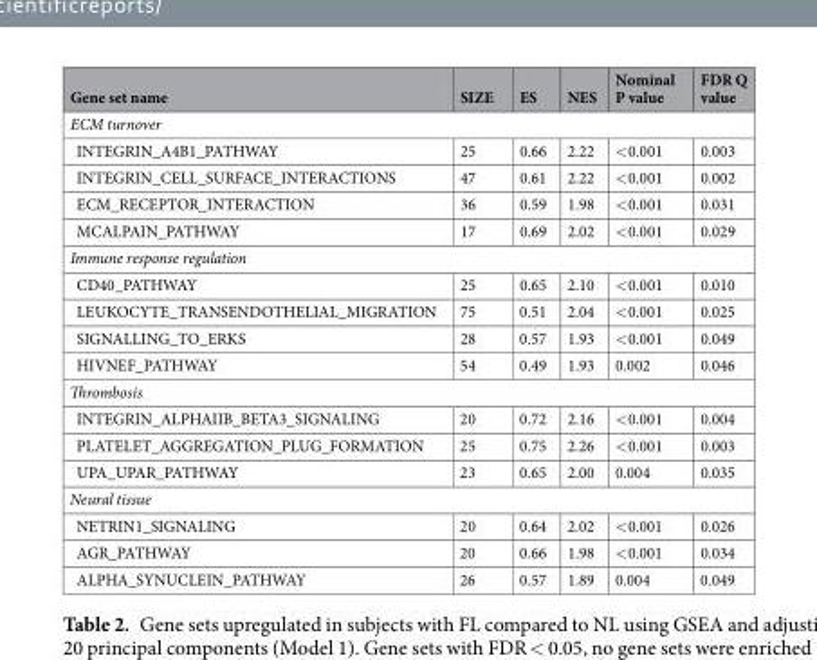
<table><thead><tr><td>Gene set name</td><td>SIZE</td><td>ES</td><td>NES</td><td>Nominal P value</td><td>FDR Q value</td></tr></thead><tbody><tr><td colspan="6">ECM turnover</td></tr><tr><td>INTEGRIN_A4B1_PATHWAY</td><td>25</td><td>0.66</td><td>2.22</td><td>&lt;0.001</td><td>0.003</td></tr><tr><td>INTEGRIN_CELL_SURFACE_INTERACTIONS</td><td>47</td><td>0.61</td><td>2.22</td><td>&lt;0.001</td><td>0.002</td></tr><tr><td>ECM_RECEPTOR_INTERACTION</td><td>36</td><td>0.59</td><td>1.98</td><td>&lt;0.001</td><td>0.031</td></tr><tr><td>MCALPAIN_PATHWAY</td><td>17</td><td>0.69</td><td>2.02</td><td>&lt;0.001</td><td>0.029</td></tr><tr><td colspan="6">Immune response regulation</td></tr><tr><td>CD40_PATHWAY</td><td>25</td><td>0.65</td><td>2.10</td><td>&lt;0.001</td><td>0.010</td></tr><tr><td>LEUKOCYTE_TRANSENDOTHELIAL_MIGRATION</td><td>75</td><td>0.51</td><td>2.04</td><td>&lt;0.001</td><td>0.025</td></tr><tr><td>SIGNALLING_TO_ERKS</td><td>28</td><td>0.57</td><td>1.93</td><td>&lt;0.001</td><td>0.049</td></tr><tr><td>HIVNEF_PATHWAY</td><td>54</td><td>0.49</td><td>1.93</td><td>0.002</td><td>0.046</td></tr><tr><td colspan="6">Thrombosis</td></tr><tr><td>INTEGRIN_ALPHAIIB_BETA3_SIGNALING</td><td>20</td><td>0.72</td><td>2.16</td><td>&lt;0.001</td><td>0.004</td></tr><tr><td>PLATELET_AGGREGATION_PLUG_FORMATION</td><td>25</td><td>0.75</td><td>2.26</td><td>&lt;0.001</td><td>0.003</td></tr><tr><td>UPA_UPAR_PATHWAY</td><td>23</td><td>0.65</td><td>2.00</td><td>0.004</td><td>0.035</td></tr><tr><td colspan="6">Neural tissue</td></tr><tr><td>NETRIN1_SIGNALING</td><td>20</td><td>0.64</td><td>2.02</td><td>&lt;0.001</td><td>0.026</td></tr><tr><td>AGR_PATHWAY</td><td>20</td><td>0.66</td><td>1.98</td><td>&lt;0.001</td><td>0.034</td></tr><tr><td>ALPHA_SYNUCLEIN_PATHWAY</td><td>26</td><td>0.57</td><td>1.89</td><td>0.004</td><td>0.049</td></tr></tbody></table>